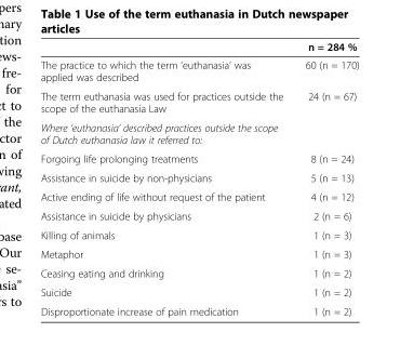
<table><thead><tr><td></td><td>n = 284 %</td></tr></thead><tbody><tr><td>The practice to which the term ‘euthanasia’ was applied was described</td><td>60 (n = 170)</td></tr><tr><td>The term euthanasia was used for practices outside the scope of the euthanasia Law</td><td>24 (n = 67)</td></tr><tr><td colspan="2">Where ‘euthanasia’ described practices outside the scope of Dutch euthanasia law it referred to:</td></tr><tr><td>Forgoing life prolonging treatments</td><td>8 (n = 24)</td></tr><tr><td>Assistance in suicide by non-physicians</td><td>5 (n = 13)</td></tr><tr><td>Active ending of life without request of the patient</td><td>4 (n = 12)</td></tr><tr><td>Assistance in suicide by physicians</td><td>2 (n = 6)</td></tr><tr><td>Killing of animals</td><td>1 (n = 3)</td></tr><tr><td>Metaphor</td><td>1 (n = 3)</td></tr><tr><td>Ceasing eating and drinking</td><td>1 (n = 2)</td></tr><tr><td>Suicide</td><td>1 (n = 2)</td></tr><tr><td>Disproportionate increase of pain medication</td><td>1 (n = 2)</td></tr></tbody></table>